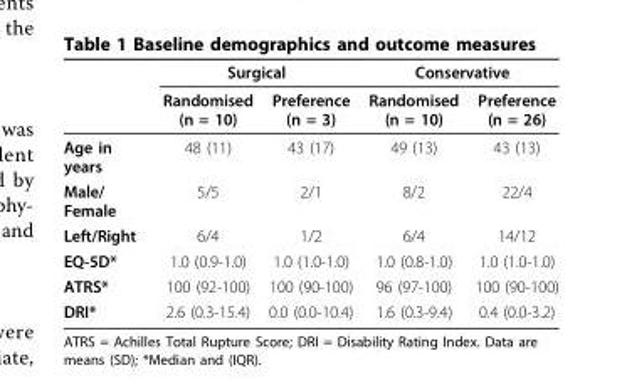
<table><thead><tr><td rowspan="2"></td><td colspan="2">Surgical</td><td colspan="2">Conservative</td></tr><tr><td>Randomised (n = 10)</td><td>Preference (n = 3)</td><td>Randomised (n = 10)</td><td>Preference (n = 26)</td></tr></thead><tbody><tr><td>Age in years</td><td>48 (11)</td><td>43 (17)</td><td>49 (13)</td><td>43 (13)</td></tr><tr><td>Male/ Female</td><td>5/5</td><td>2/1</td><td>8/2</td><td>22/4</td></tr><tr><td>Left/Right</td><td>6/4</td><td>1/2</td><td>6/4</td><td>14/12</td></tr><tr><td>EQ-5D*</td><td>1.0 (0.9-1.0)</td><td>1.0 (1.0-1.0)</td><td>1.0 (0.8-1.0)</td><td>1.0 (1.0-1.0)</td></tr><tr><td>ATRS*</td><td>100 (92-100)</td><td>100 (90-100)</td><td>96 (97-100)</td><td>100 (90-100)</td></tr><tr><td>DRI*</td><td>2.6 (0.3-15.4)</td><td>0.0 (0.0-10.4)</td><td>1.6 (0.3-9.4)</td><td>0.4 (0.0-3.2)</td></tr></tbody></table>